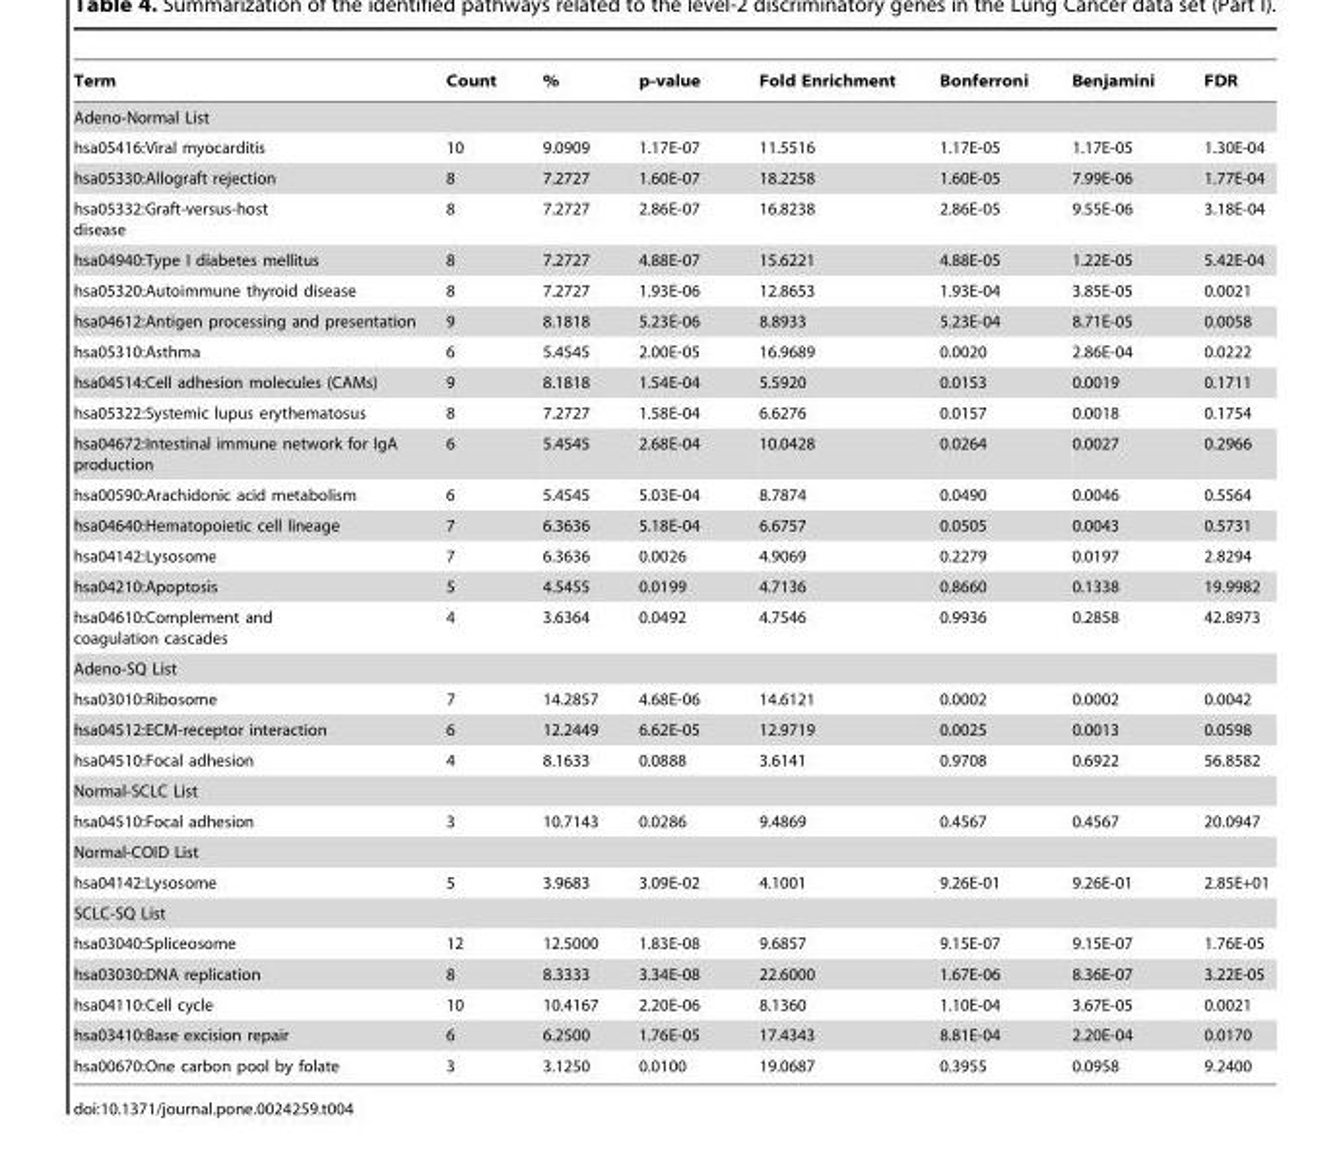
<table><thead><tr><td>Term</td><td>Count</td><td>%</td><td>p-value</td><td>Fold Enrichment</td><td>Bonferroni</td><td>Benjamini</td><td>FDR</td></tr></thead><tbody><tr><td colspan="8">Adeno-Normal List</td></tr><tr><td>hsa05416:Viral myocarditis</td><td>10</td><td>9.0909</td><td>1.17E-07</td><td>11.5516</td><td>1.17E-05</td><td>1.17E-05</td><td>1.30E-04</td></tr><tr><td>hsa05330:Allograft rejection</td><td>8</td><td>7.2727</td><td>1.60E-07</td><td>18.2258</td><td>1.60E-05</td><td>7.99E-06</td><td>1.77E-04</td></tr><tr><td>hsa05332:Graft-versus-host disease</td><td>8</td><td>7.2727</td><td>2.86E-07</td><td>16.8238</td><td>2.86E-05</td><td>9.55E-06</td><td>3.18E-04</td></tr><tr><td>hsa04940:Type I diabetes mellitus</td><td>8</td><td>7.2727</td><td>4.88E-07</td><td>15.6221</td><td>4.88E-05</td><td>1.22E-05</td><td>5.42E-04</td></tr><tr><td>hsa05320:Autoimmune thyroid disease</td><td>8</td><td>7.2727</td><td>1.93E-06</td><td>12.8653</td><td>1.93E-04</td><td>3.85E-05</td><td>0.0021</td></tr><tr><td>hsa04612:Antigen processing and presentation</td><td>9</td><td>8.1818</td><td>5.23E-06</td><td>8.8933</td><td>5.23E-04</td><td>8.71E-05</td><td>0.0058</td></tr><tr><td>hsa05310:Asthma</td><td>6</td><td>5.4545</td><td>2.00E-05</td><td>16.9689</td><td>0.0020</td><td>2.86E-04</td><td>0.0222</td></tr><tr><td>hsa04514:Cell adhesion molecules (CAMs)</td><td>9</td><td>8.1818</td><td>1.54E-04</td><td>5.5920</td><td>0.0153</td><td>0.0019</td><td>0.1711</td></tr><tr><td>hsa05322:Systemic lupus erythematosus</td><td>8</td><td>7.2727</td><td>1.58E-04</td><td>6.6276</td><td>0.0157</td><td>0.0018</td><td>0.1754</td></tr><tr><td>hsa04672:Intestinal immune network for IgA production</td><td>6</td><td>5.4545</td><td>2.68E-04</td><td>10.0428</td><td>0.0264</td><td>0.0027</td><td>0.2966</td></tr><tr><td>hsa00590:Arachidonic acid metabolism</td><td>6</td><td>5.4545</td><td>5.03E-04</td><td>8.7874</td><td>0.0490</td><td>0.0046</td><td>0.5564</td></tr><tr><td>hsa04640:Hematopoietic cell lineage</td><td>7</td><td>6.3636</td><td>5.18E-04</td><td>6.6757</td><td>0.0505</td><td>0.0043</td><td>0.5731</td></tr><tr><td>hsa04142:Lysosome</td><td>7</td><td>6.3636</td><td>0.0026</td><td>4.9069</td><td>0.2279</td><td>0.0197</td><td>2.8294</td></tr><tr><td>hsa04210:Apoptosis</td><td>5</td><td>4.5455</td><td>0.0199</td><td>4.7136</td><td>0.8660</td><td>0.1338</td><td>19.9982</td></tr><tr><td>hsa04610:Complement and coagulation cascades</td><td>4</td><td>3.6364</td><td>0.0492</td><td>4.7546</td><td>0.9936</td><td>0.2858</td><td>42.8973</td></tr><tr><td colspan="8">Adeno-SQ List</td></tr><tr><td>hsa03010:Ribosome</td><td>7</td><td>14.2857</td><td>4.68E-06</td><td>14.6121</td><td>0.0002</td><td>0.0002</td><td>0.0042</td></tr><tr><td>hsa04512:ECM-receptor interaction</td><td>6</td><td>12.2449</td><td>6.62E-05</td><td>12.9719</td><td>0.0025</td><td>0.0013</td><td>0.0598</td></tr><tr><td>hsa04510:Focal adhesion</td><td>4</td><td>8.1633</td><td>0.0888</td><td>3.6141</td><td>0.9708</td><td>0.6922</td><td>56.8582</td></tr><tr><td colspan="8">Normal-SCLC List</td></tr><tr><td>hsa04510:Focal adhesion</td><td>3</td><td>10.7143</td><td>0.0286</td><td>9.4869</td><td>0.4567</td><td>0.4567</td><td>20.0947</td></tr><tr><td colspan="8">Normal-COID List</td></tr><tr><td>hsa04142:Lysosome</td><td>5</td><td>3.9683</td><td>3.09E-02</td><td>4.1001</td><td>9.26E-01</td><td>9.26E-01</td><td>2.85E+01</td></tr><tr><td colspan="8">SCLC-SQ List</td></tr><tr><td>hsa03040:Spliceosome</td><td>12</td><td>12.5000</td><td>1.83E-08</td><td>9.6857</td><td>9.15E-07</td><td>9.15E-07</td><td>1.76E-05</td></tr><tr><td>hsa03030:DNA replication</td><td>8</td><td>8.3333</td><td>3.34E-08</td><td>22.6000</td><td>1.67E-06</td><td>8.36E-07</td><td>3.22E-05</td></tr><tr><td>hsa04110:Cell cycle</td><td>10</td><td>10.4167</td><td>2.20E-06</td><td>8.1360</td><td>1.10E-04</td><td>3.67E-05</td><td>0.0021</td></tr><tr><td>hsa03410:Base excision repair</td><td>6</td><td>6.2500</td><td>1.76E-05</td><td>17.4343</td><td>8.81E-04</td><td>2.20E-04</td><td>0.0170</td></tr><tr><td>hsa00670:One carbon pool by folate</td><td>3</td><td>3.1250</td><td>0.0100</td><td>19.0687</td><td>0.3955</td><td>0.0958</td><td>9.2400</td></tr></tbody></table>